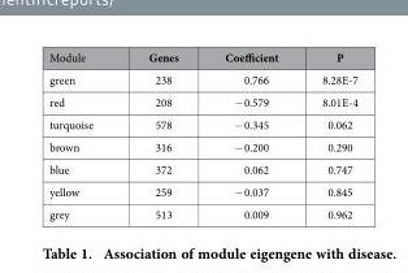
<table><thead><tr><td>Module</td><td>Genes</td><td>Coefficient</td><td>P</td></tr></thead><tbody><tr><td>green</td><td>238</td><td>0.766</td><td>8.28E-7</td></tr><tr><td>red</td><td>208</td><td>− 0.579</td><td>8.01E-4</td></tr><tr><td>turquoise</td><td>578</td><td>− 0.345</td><td>0.062</td></tr><tr><td>brown</td><td>316</td><td>− 0.200</td><td>0.290</td></tr><tr><td>blue</td><td>372</td><td>0.062</td><td>0.747</td></tr><tr><td>yellow</td><td>259</td><td>− 0.037</td><td>0.845</td></tr><tr><td>grey</td><td>513</td><td>0.009</td><td>0.962</td></tr></tbody></table>